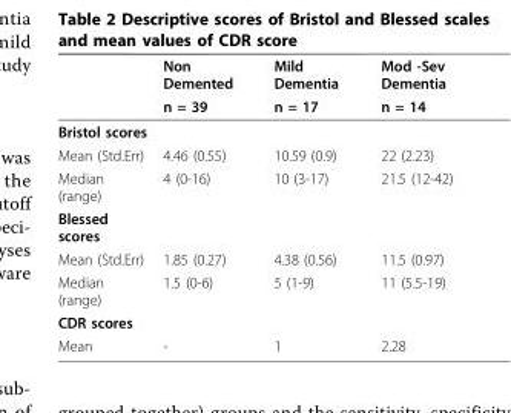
<table><thead><tr><td rowspan="2"></td><td rowspan="2">Non Demented n = 39</td><td rowspan="2">Mild Dementia n = 17</td><td rowspan="2">Mod -Sev Dementia n = 14</td></tr><tr></tr></thead><tbody><tr><td colspan="4">Bristol scores</td></tr><tr><td>Mean (Std.Err)</td><td>4.46 (0.55)</td><td>10.59 (0.9)</td><td>22 (2.23)</td></tr><tr><td>Median (range)</td><td>4 (0-16)</td><td>10 (3-17)</td><td>21.5 (12-42)</td></tr><tr><td colspan="4">Blessed scores</td></tr><tr><td>Mean (Std.Err)</td><td>1.85 (0.27)</td><td>4.38 (0.56)</td><td>11.5 (0.97)</td></tr><tr><td>Median (range)</td><td>1.5 (0-6)</td><td>5 (1-9)</td><td>11 (5.5-19)</td></tr><tr><td colspan="4">CDR scores</td></tr><tr><td>Mean</td><td>-</td><td>1</td><td>2.28</td></tr></tbody></table>